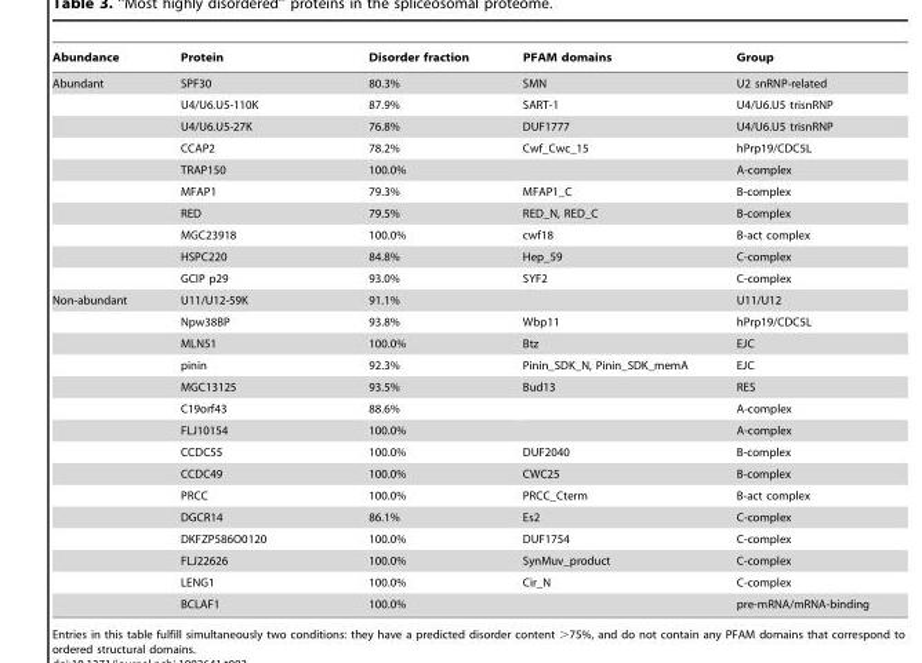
<table><thead><tr><td>Abundance</td><td>Protein</td><td>Disorder fraction</td><td>PFAM domains</td><td>Group</td></tr></thead><tbody><tr><td rowspan="10">Abundant</td><td>SPF30</td><td>80.3%</td><td>SMN</td><td>U2 snRNP-related</td></tr><tr><td>U4/U6.U5-110K</td><td>87.9%</td><td>SART-1</td><td>U4/U6.U5 trisnRNP</td></tr><tr><td>U4/U6.U5-27K</td><td>76.8%</td><td>DUF1777</td><td>U4/U6.U5 trisnRNP</td></tr><tr><td>CCAP2</td><td>78.2%</td><td>Cwf_Cwc_15</td><td>hPrp19/CDC5L</td></tr><tr><td>TRAP150</td><td>100.0%</td><td></td><td>A-complex</td></tr><tr><td>MFAP1</td><td>79.3%</td><td>MFAP1_C</td><td>B-complex</td></tr><tr><td>RED</td><td>79.5%</td><td>RED_N, RED_C</td><td>B-complex</td></tr><tr><td>MGC23918</td><td>100.0%</td><td>cwf18</td><td>B-act complex</td></tr><tr><td>HSPC220</td><td>84.8%</td><td>Hep_59</td><td>C-complex</td></tr><tr><td>GCIP p29</td><td>93.0%</td><td>SYF2</td><td>C-complex</td></tr><tr><td rowspan="15">Non-abundant</td><td>U11/U12-59K</td><td>91.1%</td><td></td><td>U11/U12</td></tr><tr><td>Npw38BP</td><td>93.8%</td><td>Wbp11</td><td>hPrp19/CDC5L</td></tr><tr><td>MLN51</td><td>100.0%</td><td>Btz</td><td>EJC</td></tr><tr><td>pinin</td><td>92.3%</td><td>Pinin_SDK_N, Pinin_SDK_memA</td><td>EJC</td></tr><tr><td>MGC13125</td><td>93.5%</td><td>Bud13</td><td>RES</td></tr><tr><td>C19orf43</td><td>88.6%</td><td></td><td>A-complex</td></tr><tr><td>FLJ10154</td><td>100.0%</td><td></td><td>A-complex</td></tr><tr><td>CCDC55</td><td>100.0%</td><td>DUF2040</td><td>B-complex</td></tr><tr><td>CCDC49</td><td>100.0%</td><td>CWC25</td><td>B-complex</td></tr><tr><td>PRCC</td><td>100.0%</td><td>PRCC_Cterm</td><td>B-act complex</td></tr><tr><td>DGCR14</td><td>86.1%</td><td>Es2</td><td>C-complex</td></tr><tr><td>DKFZP586O0120</td><td>100.0%</td><td>DUF1754</td><td>C-complex</td></tr><tr><td>FLJ22626</td><td>100.0%</td><td>SynMuv_product</td><td>C-complex</td></tr><tr><td>LENG1</td><td>100.0%</td><td>Cir_N</td><td>C-complex</td></tr><tr><td>BCLAF1</td><td>100.0%</td><td></td><td>pre-mRNA/mRNA-binding</td></tr></tbody></table>